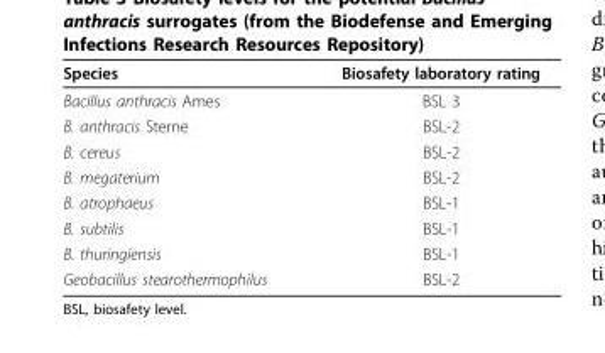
<table><thead><tr><td>Species</td><td>Biosafety laboratory rating</td></tr></thead><tbody><tr><td>Bacillus anthracis Ames</td><td>BSL 3</td></tr><tr><td>B. anthracis Sterne</td><td>BSL-2</td></tr><tr><td>B. cereus</td><td>BSL-2</td></tr><tr><td>B. megaterium</td><td>BSL-2</td></tr><tr><td>B. atrophaeus</td><td>BSL-1</td></tr><tr><td>B. subtilis</td><td>BSL-1</td></tr><tr><td>B. thuringiensis</td><td>BSL-1</td></tr><tr><td>Geobacillus stearothermophilus</td><td>BSL-2</td></tr></tbody></table>